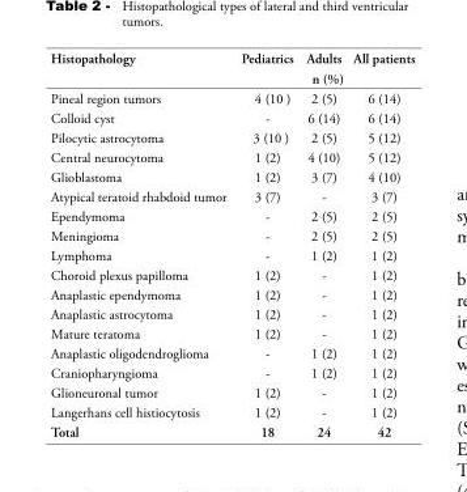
<table><thead><tr><td rowspan="2">Histopathology</td><td>Pediatrics</td><td>Adults</td><td>All patients</td></tr><tr><td colspan="3">n (%)</td></tr></thead><tbody><tr><td>Pineal region tumors</td><td>4 (10 )</td><td>2 (5)</td><td>6 (14)</td></tr><tr><td>Colloid cyst</td><td>-</td><td>6 (14)</td><td>6 (14)</td></tr><tr><td>Pilocytic astrocytoma</td><td>3 (10 )</td><td>2 (5)</td><td>5 (12)</td></tr><tr><td>Central neurocytoma</td><td>1 (2)</td><td>4 (10)</td><td>5 (12)</td></tr><tr><td>Glioblastoma</td><td>1 (2)</td><td>3 (7)</td><td>4 (10)</td></tr><tr><td>Atypical teratoid rhabdoid tumor</td><td>3 (7)</td><td>-</td><td>3 (7)</td></tr><tr><td>Ependymoma</td><td>-</td><td>2 (5)</td><td>2 (5)</td></tr><tr><td>Meningioma</td><td>-</td><td>2 (5)</td><td>2 (5)</td></tr><tr><td>Lymphoma</td><td>-</td><td>1 (2)</td><td>1 (2)</td></tr><tr><td>Choroid plexus papilloma</td><td>1 (2)</td><td>-</td><td>1 (2)</td></tr><tr><td>Anaplastic ependymoma</td><td>1 (2)</td><td>-</td><td>1 (2)</td></tr><tr><td>Anaplastic astrocytoma</td><td>1 (2)</td><td>-</td><td>1 (2)</td></tr><tr><td>Mature teratoma</td><td>1 (2)</td><td>-</td><td>1 (2)</td></tr><tr><td>Anaplastic oligodendroglioma</td><td>-</td><td>1 (2)</td><td>1 (2)</td></tr><tr><td>Craniopharyngioma</td><td>-</td><td>1 (2)</td><td>1 (2)</td></tr><tr><td>Glioneuronal tumor</td><td>1 (2)</td><td>-</td><td>1 (2)</td></tr><tr><td>Langerhans cell histiocytosis</td><td>1 (2)</td><td>-</td><td>1 (2)</td></tr><tr><td>Total</td><td>18</td><td>24</td><td>42</td></tr></tbody></table>